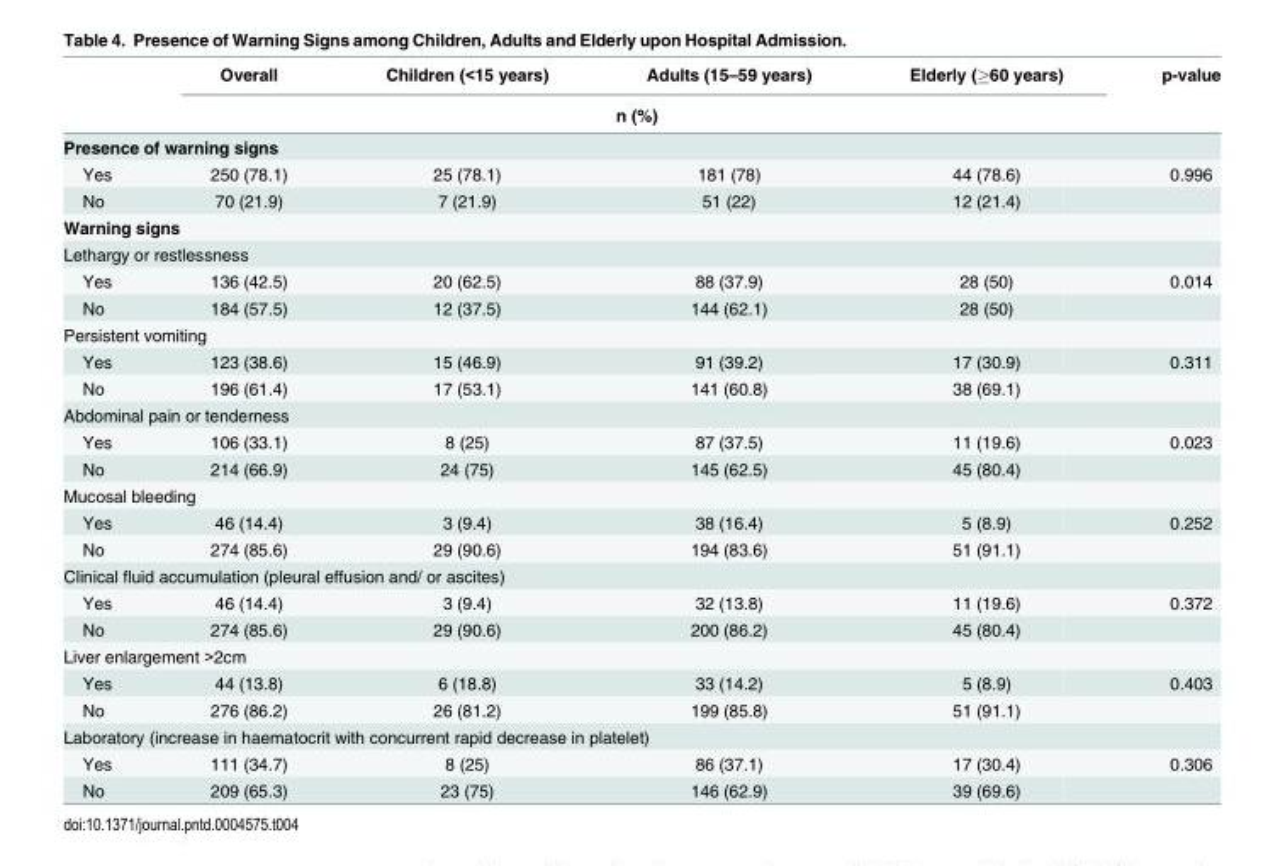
<table><thead><tr><td rowspan="2"></td><td>Overall</td><td>Children (&lt;15 years)</td><td>Adults (15–59 years)</td><td>Elderly (≥60 years)</td><td rowspan="2">p-value</td></tr><tr><td colspan="4">n (%)</td></tr></thead><tbody><tr><td colspan="6">Presence of warning signs</td></tr><tr><td>Yes</td><td>250 (78.1)</td><td>25 (78.1)</td><td>181 (78)</td><td>44 (78.6)</td><td>0.996</td></tr><tr><td>No</td><td>70 (21.9)</td><td>7 (21.9)</td><td>51 (22)</td><td>12 (21.4)</td><td></td></tr><tr><td colspan="6">Warning signs</td></tr><tr><td colspan="6">Lethargy or restlessness</td></tr><tr><td>Yes</td><td>136 (42.5)</td><td>20 (62.5)</td><td>88 (37.9)</td><td>28 (50)</td><td>0.014</td></tr><tr><td>No</td><td>184 (57.5)</td><td>12 (37.5)</td><td>144 (62.1)</td><td>28 (50)</td><td></td></tr><tr><td colspan="6">Persistent vomiting</td></tr><tr><td>Yes</td><td>123 (38.6)</td><td>15 (46.9)</td><td>91 (39.2)</td><td>17 (30.9)</td><td>0.311</td></tr><tr><td>No</td><td>196 (61.4)</td><td>17 (53.1)</td><td>141 (60.8)</td><td>38 (69.1)</td><td></td></tr><tr><td colspan="6">Abdominal pain or tenderness</td></tr><tr><td>Yes</td><td>106 (33.1)</td><td>8 (25)</td><td>87 (37.5)</td><td>11 (19.6)</td><td>0.023</td></tr><tr><td>No</td><td>214 (66.9)</td><td>24 (75)</td><td>145 (62.5)</td><td>45 (80.4)</td><td></td></tr><tr><td colspan="6">Mucosal bleeding</td></tr><tr><td>Yes</td><td>46 (14.4)</td><td>3 (9.4)</td><td>38 (16.4)</td><td>5 (8.9)</td><td>0.252</td></tr><tr><td>No</td><td>274 (85.6)</td><td>29 (90.6)</td><td>194 (83.6)</td><td>51 (91.1)</td><td></td></tr><tr><td colspan="6">Clinical fluid accumulation (pleural effusion and/ or ascites)</td></tr><tr><td>Yes</td><td>46 (14.4)</td><td>3 (9.4)</td><td>32 (13.8)</td><td>11 (19.6)</td><td>0.372</td></tr><tr><td>No</td><td>274 (85.6)</td><td>29 (90.6)</td><td>200 (86.2)</td><td>45 (80.4)</td><td></td></tr><tr><td colspan="6">Liver enlargement &gt;2cm</td></tr><tr><td>Yes</td><td>44 (13.8)</td><td>6 (18.8)</td><td>33 (14.2)</td><td>5 (8.9)</td><td>0.403</td></tr><tr><td>No</td><td>276 (86.2)</td><td>26 (81.2)</td><td>199 (85.8)</td><td>51 (91.1)</td><td></td></tr><tr><td colspan="6">Laboratory (increase in haematocrit with concurrent rapid decrease in platelet)</td></tr><tr><td>Yes</td><td>111 (34.7)</td><td>8 (25)</td><td>86 (37.1)</td><td>17 (30.4)</td><td>0.306</td></tr><tr><td>No</td><td>209 (65.3)</td><td>23 (75)</td><td>146 (62.9)</td><td>39 (69.6)</td><td></td></tr></tbody></table>